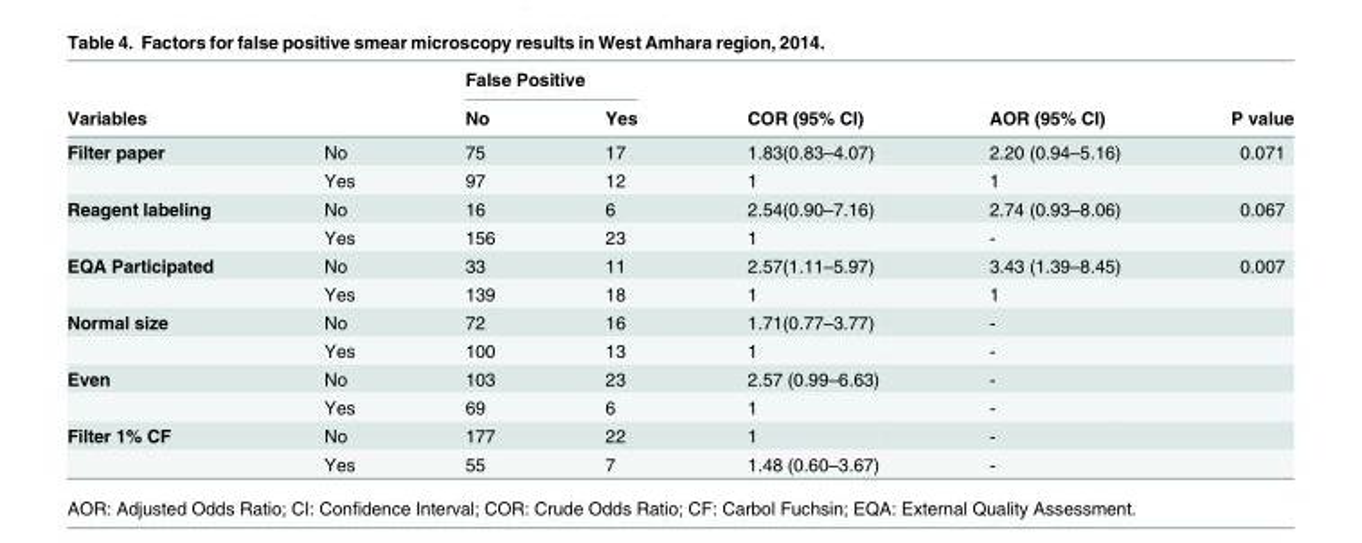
<table><thead><tr><td rowspan="2">Variables</td><td rowspan="2"></td><td colspan="2">False Positive</td><td rowspan="2">COR (95% CI)</td><td rowspan="2">AOR (95% CI)</td><td rowspan="2">P value</td></tr><tr><td>No</td><td>Yes</td></tr></thead><tbody><tr><td rowspan="2">Filter paper</td><td>No</td><td>75</td><td>17</td><td>1.83(0.83–4.07)</td><td>2.20 (0.94–5.16)</td><td>0.071</td></tr><tr><td>Yes</td><td>97</td><td>12</td><td>1</td><td>1</td><td></td></tr><tr><td rowspan="2">Reagent labeling</td><td>No</td><td>16</td><td>6</td><td>2.54(0.90–7.16)</td><td>2.74 (0.93–8.06)</td><td>0.067</td></tr><tr><td>Yes</td><td>156</td><td>23</td><td>1</td><td>-</td><td></td></tr><tr><td rowspan="2">EQA Participated</td><td>No</td><td>33</td><td>11</td><td>2.57(1.11–5.97)</td><td>3.43 (1.39–8.45)</td><td>0.007</td></tr><tr><td>Yes</td><td>139</td><td>18</td><td>1</td><td>1</td><td></td></tr><tr><td rowspan="2">Normal size</td><td>No</td><td>72</td><td>16</td><td>1.71(0.77–3.77)</td><td>-</td><td></td></tr><tr><td>Yes</td><td>100</td><td>13</td><td>1</td><td>-</td><td></td></tr><tr><td rowspan="2">Even</td><td>No</td><td>103</td><td>23</td><td>2.57 (0.99–6.63)</td><td>-</td><td></td></tr><tr><td>Yes</td><td>69</td><td>6</td><td>1</td><td>-</td><td></td></tr><tr><td rowspan="2">Filter 1% CF</td><td>No</td><td>177</td><td>22</td><td>1</td><td>-</td><td></td></tr><tr><td>Yes</td><td>55</td><td>7</td><td>1.48 (0.60–3.67)</td><td>-</td><td></td></tr></tbody></table>